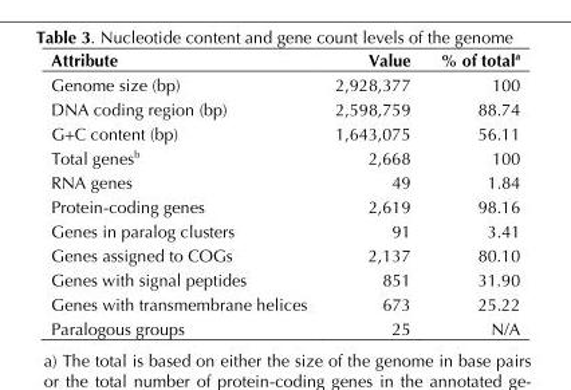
<table><thead><tr><td>Attribute</td><td>Value</td><td>% of total<sup>a</sup></td></tr></thead><tbody><tr><td>Genome size (bp)</td><td>2,928,377</td><td>100</td></tr><tr><td>DNA coding region (bp)</td><td>2,598,759</td><td>88.74</td></tr><tr><td>G+C content (bp)</td><td>1,643,075</td><td>56.11</td></tr><tr><td>Total genes<sup>b</sup></td><td>2,668</td><td>100</td></tr><tr><td>RNA genes</td><td>49</td><td>1.84</td></tr><tr><td>Protein-coding genes</td><td>2,619</td><td>98.16</td></tr><tr><td>Genes in paralog clusters</td><td>91</td><td>3.41</td></tr><tr><td>Genes assigned to COGs</td><td>2,137</td><td>80.10</td></tr><tr><td>Genes with signal peptides</td><td>851</td><td>31.90</td></tr><tr><td>Genes with transmembrane helices</td><td>673</td><td>25.22</td></tr><tr><td>Paralogous groups</td><td>25</td><td>N/A</td></tr></tbody></table>